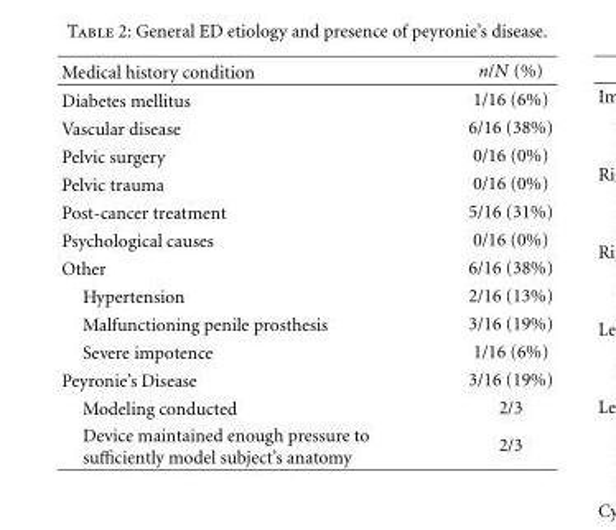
<table><thead><tr><td>Medical history condition</td><td>n/N (%)</td></tr></thead><tbody><tr><td>Diabetes mellitus</td><td>1/16 (6%)</td></tr><tr><td>Vascular disease</td><td>6/16 (38%)</td></tr><tr><td>Pelvic surgery</td><td>0/16 (0%)</td></tr><tr><td>Pelvic trauma</td><td>0/16 (0%)</td></tr><tr><td>Post-cancer treatment</td><td>5/16 (31%)</td></tr><tr><td>Psychological causes</td><td>0/16 (0%)</td></tr><tr><td>Other</td><td>6/16 (38%)</td></tr><tr><td>Hypertension</td><td>2/16 (13%)</td></tr><tr><td>Malfunctioning penile prosthesis</td><td>3/16 (19%)</td></tr><tr><td>Severe impotence</td><td>1/16 (6%)</td></tr><tr><td>Peyronie’s Disease</td><td>3/16 (19%)</td></tr><tr><td>Modeling conducted</td><td>2/3</td></tr><tr><td>Device maintained enough pressure to sufficiently model subject’s anatomy</td><td>2/3</td></tr></tbody></table>